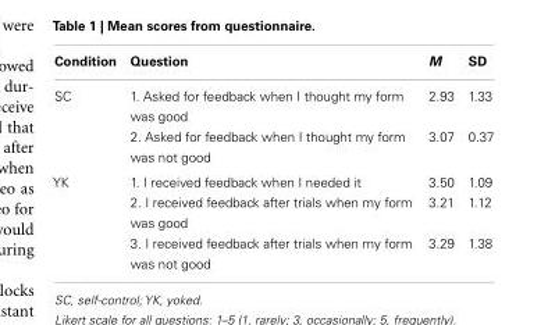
<table><thead><tr><td>Condition</td><td>Question</td><td>M</td><td>SD</td></tr></thead><tbody><tr><td rowspan="2">SC</td><td>1. Asked for feedback when I thought my form was good</td><td>2.93</td><td>1.33</td></tr><tr><td>2. Asked for feedback when I thought my form was not good</td><td>3.07</td><td>0.37</td></tr><tr><td rowspan="3">YK</td><td>1. I received feedback when I needed it</td><td>3.50</td><td>1.09</td></tr><tr><td>2. I received feedback after trials when my form was good</td><td>3.21</td><td>1.12</td></tr><tr><td>3. I received feedback after trials when my form was not good</td><td>3.29</td><td>1.38</td></tr></tbody></table>